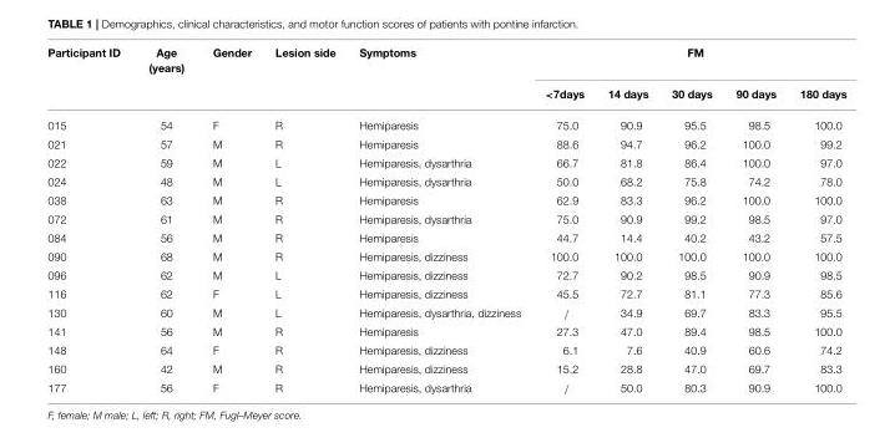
<table><thead><tr><td rowspan="2">Participant ID</td><td rowspan="2">Age (years)</td><td rowspan="2">Gender</td><td rowspan="2">Lesion side</td><td rowspan="2">Symptoms</td><td colspan="5">FM</td></tr><tr><td>&lt;7days</td><td>14 days</td><td>30 days</td><td>90 days</td><td>180 days</td></tr></thead><tbody><tr><td>015</td><td>54</td><td>F</td><td>R</td><td>Hemiparesis</td><td>75.0</td><td>90.9</td><td>95.5</td><td>98.5</td><td>100.0</td></tr><tr><td>021</td><td>57</td><td>M</td><td>R</td><td>Hemiparesis</td><td>88.6</td><td>94.7</td><td>96.2</td><td>100.0</td><td>99.2</td></tr><tr><td>022</td><td>59</td><td>M</td><td>L</td><td>Hemiparesis, dysarthria</td><td>66.7</td><td>81.8</td><td>86.4</td><td>100.0</td><td>97.0</td></tr><tr><td>024</td><td>48</td><td>M</td><td>L</td><td>Hemiparesis, dysarthria</td><td>50.0</td><td>68.2</td><td>75.8</td><td>74.2</td><td>78.0</td></tr><tr><td>038</td><td>63</td><td>M</td><td>R</td><td>Hemiparesis</td><td>62.9</td><td>83.3</td><td>96.2</td><td>100.0</td><td>100.0</td></tr><tr><td>072</td><td>61</td><td>M</td><td>R</td><td>Hemiparesis, dysarthria</td><td>75.0</td><td>90.9</td><td>99.2</td><td>98.5</td><td>97.0</td></tr><tr><td>084</td><td>56</td><td>M</td><td>R</td><td>Hemiparesis</td><td>44.7</td><td>14.4</td><td>40.2</td><td>43.2</td><td>57.5</td></tr><tr><td>090</td><td>68</td><td>M</td><td>R</td><td>Hemiparesis, dizziness</td><td>100.0</td><td>100.0</td><td>100.0</td><td>100.0</td><td>100.0</td></tr><tr><td>096</td><td>62</td><td>M</td><td>L</td><td>Hemiparesis, dizziness</td><td>72.7</td><td>90.2</td><td>98.5</td><td>90.9</td><td>98.5</td></tr><tr><td>116</td><td>62</td><td>F</td><td>L</td><td>Hemiparesis, dizziness</td><td>45.5</td><td>72.7</td><td>81.1</td><td>77.3</td><td>85.6</td></tr><tr><td>130</td><td>60</td><td>M</td><td>L</td><td>Hemiparesis, dysarthria, dizziness</td><td>/</td><td>34.9</td><td>69.7</td><td>83.3</td><td>95.5</td></tr><tr><td>141</td><td>56</td><td>M</td><td>R</td><td>Hemiparesis</td><td>27.3</td><td>47.0</td><td>89.4</td><td>98.5</td><td>100.0</td></tr><tr><td>148</td><td>64</td><td>F</td><td>R</td><td>Hemiparesis, dizziness</td><td>6.1</td><td>7.6</td><td>40.9</td><td>60.6</td><td>74.2</td></tr><tr><td>160</td><td>42</td><td>M</td><td>R</td><td>Hemiparesis, dizziness</td><td>15.2</td><td>28.8</td><td>47.0</td><td>69.7</td><td>83.3</td></tr><tr><td>177</td><td>56</td><td>F</td><td>R</td><td>Hemiparesis, dysarthria</td><td>/</td><td>50.0</td><td>80.3</td><td>90.9</td><td>100.0</td></tr></tbody></table>